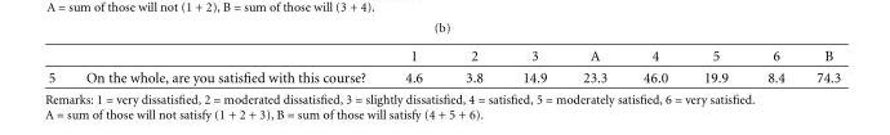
<table><thead><tr><td></td><td></td><td>1</td><td>2</td><td>3</td><td>A</td><td>4</td><td>5</td><td>6</td><td>B</td></tr></thead><tbody><tr><td>5</td><td>On the whole, are you satisfied with this course?</td><td>4.6</td><td>3.8</td><td>14.9</td><td>23.3</td><td>46.0</td><td>19.9</td><td>8.4</td><td>74.3</td></tr></tbody></table>